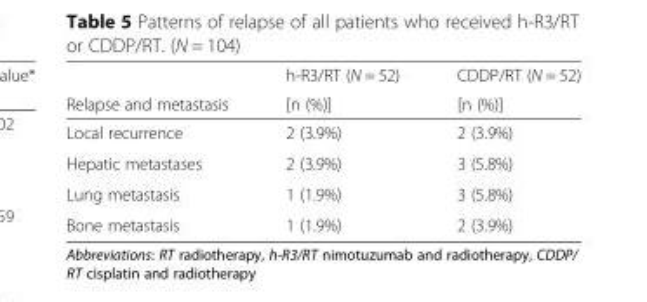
<table><thead><tr><td rowspan="2">Relapse and metastasis</td><td rowspan="2">h-R3/RT (N = 52) [n (%)]</td><td rowspan="2">CDDP/RT (N = 52) [n (%)]</td></tr><tr></tr></thead><tbody><tr><td>Local recurrence</td><td>2 (3.9%)</td><td>2 (3.9%)</td></tr><tr><td>Hepatic metastases</td><td>2 (3.9%)</td><td>3 (5.8%)</td></tr><tr><td>Lung metastasis</td><td>1 (1.9%)</td><td>3 (5.8%)</td></tr><tr><td>Bone metastasis</td><td>1 (1.9%)</td><td>2 (3.9%)</td></tr></tbody></table>